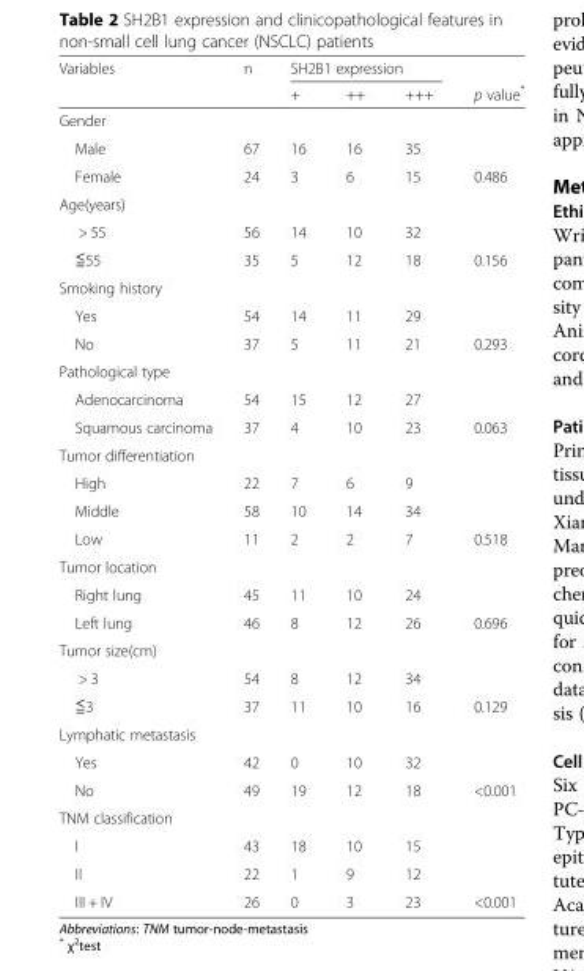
<table><thead><tr><td rowspan="2">Variables</td><td rowspan="2">n</td><td colspan="3">SH2B1 expression</td><td rowspan="2">p value*</td></tr><tr><td>+</td><td>++</td><td>+++</td></tr></thead><tbody><tr><td colspan="6">Gender</td></tr><tr><td>Male</td><td>67</td><td>16</td><td>16</td><td>35</td><td></td></tr><tr><td>Female</td><td>24</td><td>3</td><td>6</td><td>15</td><td>0.486</td></tr><tr><td colspan="6">Age(years)</td></tr><tr><td>&gt; 55</td><td>56</td><td>14</td><td>10</td><td>32</td><td></td></tr><tr><td>≦55</td><td>35</td><td>5</td><td>12</td><td>18</td><td>0.156</td></tr><tr><td colspan="6">Smoking history</td></tr><tr><td>Yes</td><td>54</td><td>14</td><td>11</td><td>29</td><td></td></tr><tr><td>No</td><td>37</td><td>5</td><td>11</td><td>21</td><td>0.293</td></tr><tr><td colspan="6">Pathological type</td></tr><tr><td>Adenocarcinoma</td><td>54</td><td>15</td><td>12</td><td>27</td><td></td></tr><tr><td>Squamous carcinoma</td><td>37</td><td>4</td><td>10</td><td>23</td><td>0.063</td></tr><tr><td colspan="6">Tumor differentiation</td></tr><tr><td>High</td><td>22</td><td>7</td><td>6</td><td>9</td><td></td></tr><tr><td>Middle</td><td>58</td><td>10</td><td>14</td><td>34</td><td></td></tr><tr><td>Low</td><td>11</td><td>2</td><td>2</td><td>7</td><td>0.518</td></tr><tr><td colspan="6">Tumor location</td></tr><tr><td>Right lung</td><td>45</td><td>11</td><td>10</td><td>24</td><td></td></tr><tr><td>Left lung</td><td>46</td><td>8</td><td>12</td><td>26</td><td>0.696</td></tr><tr><td colspan="6">Tumor size(cm)</td></tr><tr><td>&gt; 3</td><td>54</td><td>8</td><td>12</td><td>34</td><td></td></tr><tr><td>≦3</td><td>37</td><td>11</td><td>10</td><td>16</td><td>0.129</td></tr><tr><td colspan="6">Lymphatic metastasis</td></tr><tr><td>Yes</td><td>42</td><td>0</td><td>10</td><td>32</td><td></td></tr><tr><td>No</td><td>49</td><td>19</td><td>12</td><td>18</td><td>&lt;0.001</td></tr><tr><td colspan="6">TNM classification</td></tr><tr><td>I</td><td>43</td><td>18</td><td>10</td><td>15</td><td></td></tr><tr><td>II</td><td>22</td><td>1</td><td>9</td><td>12</td><td></td></tr><tr><td>III + IV</td><td>26</td><td>0</td><td>3</td><td>23</td><td>&lt;0.001</td></tr></tbody></table>